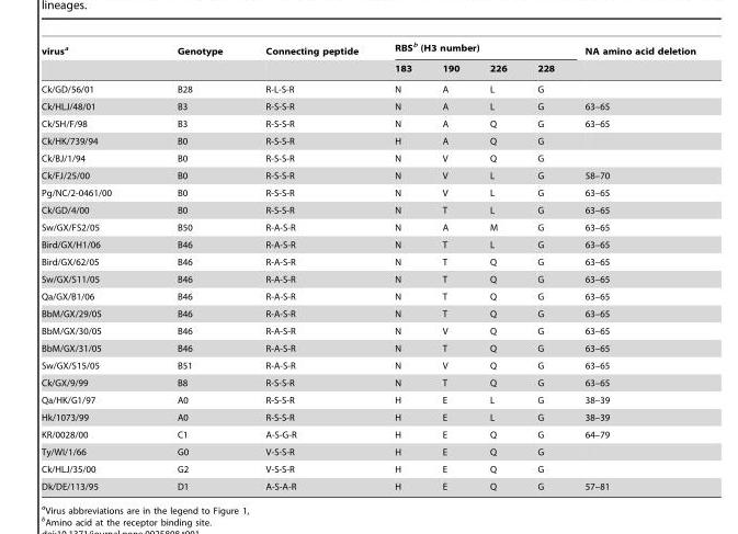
<table><thead><tr><td rowspan="2">virus<sup>a</sup></td><td rowspan="2">Genotype</td><td rowspan="2">Connecting peptide</td><td colspan="4">RBS<sup>b</sup> (H3 number)</td><td rowspan="2">NA amino acid deletion</td></tr><tr><td>183</td><td>190</td><td>226</td><td>228</td></tr></thead><tbody><tr><td>Ck/GD/56/01</td><td>B28</td><td>R-L-S-R</td><td>N</td><td>A</td><td>L</td><td>G</td><td></td></tr><tr><td>Ck/HLJ/48/01</td><td>B3</td><td>R-S-S-R</td><td>N</td><td>A</td><td>L</td><td>G</td><td>63–65</td></tr><tr><td>Ck/SH/F/98</td><td>B3</td><td>R-S-S-R</td><td>N</td><td>A</td><td>Q</td><td>G</td><td>63–65</td></tr><tr><td>Ck/HK/739/94</td><td>B0</td><td>R-S-S-R</td><td>H</td><td>A</td><td>Q</td><td>G</td><td></td></tr><tr><td>Ck/BJ/1/94</td><td>B0</td><td>R-S-S-R</td><td>N</td><td>V</td><td>Q</td><td>G</td><td></td></tr><tr><td>Ck/FJ/25/00</td><td>B0</td><td>R-S-S-R</td><td>N</td><td>V</td><td>L</td><td>G</td><td>58–70</td></tr><tr><td>Pg/NC/2-0461/00</td><td>B0</td><td>R-S-S-R</td><td>N</td><td>V</td><td>L</td><td>G</td><td>63–65</td></tr><tr><td>Ck/GD/4/00</td><td>B0</td><td>R-S-S-R</td><td>N</td><td>T</td><td>L</td><td>G</td><td>63–65</td></tr><tr><td>Sw/GX/FS2/05</td><td>B50</td><td>R-A-S-R</td><td>N</td><td>A</td><td>M</td><td>G</td><td>63–65</td></tr><tr><td>Bird/GX/H1/06</td><td>B46</td><td>R-A-S-R</td><td>N</td><td>T</td><td>L</td><td>G</td><td>63–65</td></tr><tr><td>Bird/GX/62/05</td><td>B46</td><td>R-A-S-R</td><td>N</td><td>T</td><td>Q</td><td>G</td><td>63–65</td></tr><tr><td>Sw/GX/S11/05</td><td>B46</td><td>R-A-S-R</td><td>N</td><td>T</td><td>Q</td><td>G</td><td>63–65</td></tr><tr><td>Qa/GX/B1/06</td><td>B46</td><td>R-A-S-R</td><td>N</td><td>T</td><td>Q</td><td>G</td><td>63–65</td></tr><tr><td>BbM/GX/29/05</td><td>B46</td><td>R-A-S-R</td><td>N</td><td>T</td><td>Q</td><td>G</td><td>63–65</td></tr><tr><td>BbM/GX/30/05</td><td>B46</td><td>R-A-S-R</td><td>N</td><td>V</td><td>Q</td><td>G</td><td>63–65</td></tr><tr><td>BbM/GX/31/05</td><td>B46</td><td>R-A-S-R</td><td>N</td><td>T</td><td>Q</td><td>G</td><td>63–65</td></tr><tr><td>Sw/GX/S15/05</td><td>B51</td><td>R-A-S-R</td><td>N</td><td>V</td><td>Q</td><td>G</td><td>63–65</td></tr><tr><td>Ck/GX/9/99</td><td>B8</td><td>R-S-S-R</td><td>N</td><td>T</td><td>Q</td><td>G</td><td>63–65</td></tr><tr><td>Qa/HK/G1/97</td><td>A0</td><td>R-S-S-R</td><td>H</td><td>E</td><td>L</td><td>G</td><td>38–39</td></tr><tr><td>Hk/1073/99</td><td>A0</td><td>R-S-S-R</td><td>H</td><td>E</td><td>L</td><td>G</td><td>38–39</td></tr><tr><td>KR/0028/00</td><td>C1</td><td>A-S-G-R</td><td>H</td><td>E</td><td>Q</td><td>G</td><td>64–79</td></tr><tr><td>Ty/WI/1/66</td><td>G0</td><td>V-S-S-R</td><td>H</td><td>E</td><td>Q</td><td>G</td><td></td></tr><tr><td>Ck/HLJ/35/00</td><td>G2</td><td>V-S-S-R</td><td>H</td><td>E</td><td>Q</td><td>G</td><td></td></tr><tr><td>Dk/DE/113/95</td><td>D1</td><td>A-S-A-R</td><td>H</td><td>E</td><td>Q</td><td>G</td><td>57–81</td></tr></tbody></table>